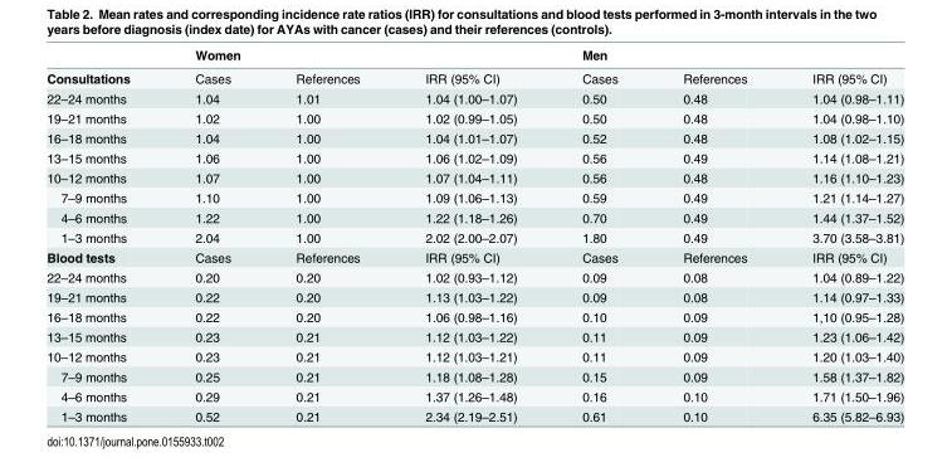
<table><thead><tr><td rowspan="2">Consultations</td><td colspan="3">Women</td><td colspan="3">Men</td></tr><tr><td>Cases</td><td>References</td><td>IRR (95% CI)</td><td>Cases</td><td>References</td><td>IRR (95% CI)</td></tr></thead><tbody><tr><td>22–24 months</td><td>1.04</td><td>1.01</td><td>1.04 (1.00–1.07)</td><td>0.50</td><td>0.48</td><td>1.04 (0.98–1.11)</td></tr><tr><td>19–21 months</td><td>1.02</td><td>1.00</td><td>1.02 (0.99–1.05)</td><td>0.50</td><td>0.48</td><td>1.04 (0.98–1.10)</td></tr><tr><td>16–18 months</td><td>1.04</td><td>1.00</td><td>1.04 (1.01–1.07)</td><td>0.52</td><td>0.48</td><td>1.08 (1.02–1.15)</td></tr><tr><td>13–15 months</td><td>1.06</td><td>1.00</td><td>1.06 (1.02–1.09)</td><td>0.56</td><td>0.49</td><td>1.14 (1.08–1.21)</td></tr><tr><td>10–12 months</td><td>1.07</td><td>1.00</td><td>1.07 (1.04–1.11)</td><td>0.56</td><td>0.48</td><td>1.16 (1.10–1.23)</td></tr><tr><td>7–9 months</td><td>1.10</td><td>1.00</td><td>1.09 (1.06–1.13)</td><td>0.59</td><td>0.49</td><td>1.21 (1.14–1.27)</td></tr><tr><td>4–6 months</td><td>1.22</td><td>1.00</td><td>1.22 (1.18–1.26)</td><td>0.70</td><td>0.49</td><td>1.44 (1.37–1.52)</td></tr><tr><td>1–3 months</td><td>2.04</td><td>1.00</td><td>2.02 (2.00–2.07)</td><td>1.80</td><td>0.49</td><td>3.70 (3.58–3.81)</td></tr><tr><td>Blood tests</td><td>Cases</td><td>References</td><td>IRR (95% CI)</td><td>Cases</td><td>References</td><td>IRR (95% CI)</td></tr><tr><td>22–24 months</td><td>0.20</td><td>0.20</td><td>1.02 (0.93–1.12)</td><td>0.09</td><td>0.08</td><td>1.04 (0.89–1.22)</td></tr><tr><td>19–21 months</td><td>0.22</td><td>0.20</td><td>1.13 (1.03–1.22)</td><td>0.09</td><td>0.08</td><td>1.14 (0.97–1.33)</td></tr><tr><td>16–18 months</td><td>0.22</td><td>0.20</td><td>1.06 (0.98–1.16)</td><td>0.10</td><td>0.09</td><td>1,10 (0.95–1.28)</td></tr><tr><td>13–15 months</td><td>0.23</td><td>0.21</td><td>1.12 (1.03–1.22)</td><td>0.11</td><td>0.09</td><td>1.23 (1.06–1.42)</td></tr><tr><td>10–12 months</td><td>0.23</td><td>0.21</td><td>1.12 (1.03–1.21)</td><td>0.11</td><td>0.09</td><td>1.20 (1.03–1.40)</td></tr><tr><td>7–9 months</td><td>0.25</td><td>0.21</td><td>1.18 (1.08–1.28)</td><td>0.15</td><td>0.09</td><td>1.58 (1.37–1.82)</td></tr><tr><td>4–6 months</td><td>0.29</td><td>0.21</td><td>1.37 (1.26–1.48)</td><td>0.16</td><td>0.10</td><td>1.71 (1.50–1.96)</td></tr><tr><td>1–3 months</td><td>0.52</td><td>0.21</td><td>2.34 (2.19–2.51)</td><td>0.61</td><td>0.10</td><td>6.35 (5.82–6.93)</td></tr></tbody></table>